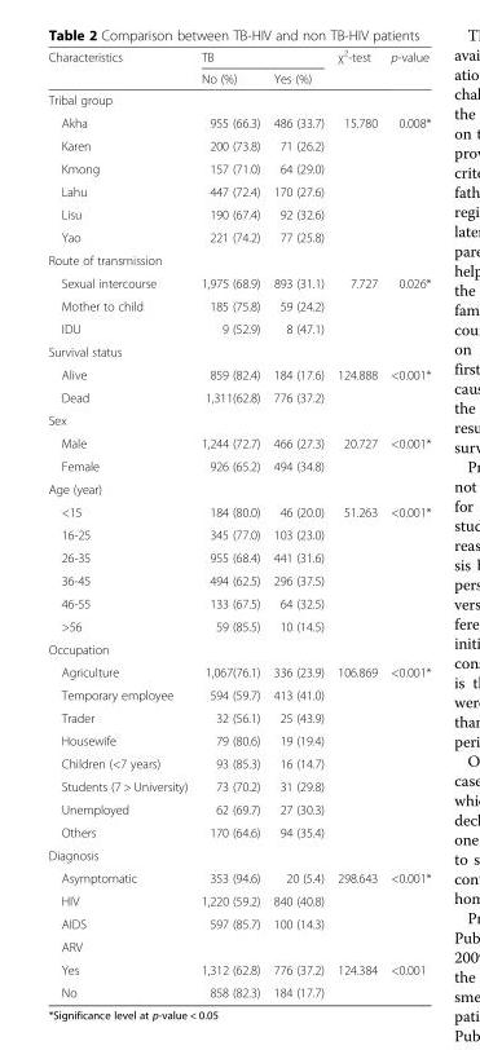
<table><thead><tr><td rowspan="2">Characteristics</td><td colspan="2">TB</td><td rowspan="2">χ<sup>2</sup>-test</td><td rowspan="2">p-value</td></tr><tr><td>No (%)</td><td>Yes (%)</td></tr></thead><tbody><tr><td colspan="5">Tribal group</td></tr><tr><td>Akha</td><td>955 (66.3)</td><td>486 (33.7)</td><td>15.780</td><td>0.008*</td></tr><tr><td>Karen</td><td>200 (73.8)</td><td>71 (26.2)</td><td></td><td></td></tr><tr><td>Kmong</td><td>157 (71.0)</td><td>64 (29.0)</td><td></td><td></td></tr><tr><td>Lahu</td><td>447 (72.4)</td><td>170 (27.6)</td><td></td><td></td></tr><tr><td>Lisu</td><td>190 (67.4)</td><td>92 (32.6)</td><td></td><td></td></tr><tr><td>Yao</td><td>221 (74.2)</td><td>77 (25.8)</td><td></td><td></td></tr><tr><td colspan="5">Route of transmission</td></tr><tr><td>Sexual intercourse</td><td>1,975 (68.9)</td><td>893 (31.1)</td><td>7.727</td><td>0.026*</td></tr><tr><td>Mother to child</td><td>185 (75.8)</td><td>59 (24.2)</td><td></td><td></td></tr><tr><td>IDU</td><td>9 (52.9)</td><td>8 (47.1)</td><td></td><td></td></tr><tr><td colspan="5">Survival status</td></tr><tr><td>Alive</td><td>859 (82.4)</td><td>184 (17.6)</td><td>124.888</td><td>&lt;0.001*</td></tr><tr><td>Dead</td><td>1,311(62.8)</td><td>776 (37.2)</td><td></td><td></td></tr><tr><td colspan="5">Sex</td></tr><tr><td>Male</td><td>1,244 (72.7)</td><td>466 (27.3)</td><td>20.727</td><td>&lt;0.001*</td></tr><tr><td>Female</td><td>926 (65.2)</td><td>494 (34.8)</td><td></td><td></td></tr><tr><td colspan="5">Age (year)</td></tr><tr><td>&lt;15</td><td>184 (80.0)</td><td>46 (20.0)</td><td>51.263</td><td>&lt;0.001*</td></tr><tr><td>16-25</td><td>345 (77.0)</td><td>103 (23.0)</td><td></td><td></td></tr><tr><td>26-35</td><td>955 (68.4)</td><td>441 (31.6)</td><td></td><td></td></tr><tr><td>36-45</td><td>494 (62.5)</td><td>296 (37.5)</td><td></td><td></td></tr><tr><td>46-55</td><td>133 (67.5)</td><td>64 (32.5)</td><td></td><td></td></tr><tr><td>&gt;56</td><td>59 (85.5)</td><td>10 (14.5)</td><td></td><td></td></tr><tr><td colspan="5">Occupation</td></tr><tr><td>Agriculture</td><td>1,067(76.1)</td><td>336 (23.9)</td><td>106.869</td><td>&lt;0.001*</td></tr><tr><td>Temporary employee</td><td>594 (59.7)</td><td>413 (41.0)</td><td></td><td></td></tr><tr><td>Trader</td><td>32 (56.1)</td><td>25 (43.9)</td><td></td><td></td></tr><tr><td>Housewife</td><td>79 (80.6)</td><td>19 (19.4)</td><td></td><td></td></tr><tr><td>Children (&lt;7 years)</td><td>93 (85.3)</td><td>16 (14.7)</td><td></td><td></td></tr><tr><td>Students (7 &gt; University)</td><td>73 (70.2)</td><td>31 (29.8)</td><td></td><td></td></tr><tr><td>Unemployed</td><td>62 (69.7)</td><td>27 (30.3)</td><td></td><td></td></tr><tr><td>Others</td><td>170 (64.6)</td><td>94 (35.4)</td><td></td><td></td></tr><tr><td colspan="5">Diagnosis</td></tr><tr><td>Asymptomatic</td><td>353 (94.6)</td><td>20 (5.4)</td><td>298.643</td><td>&lt;0.001*</td></tr><tr><td>HIV</td><td>1,220 (59.2)</td><td>840 (40.8)</td><td></td><td></td></tr><tr><td>AIDS</td><td>597 (85.7)</td><td>100 (14.3)</td><td></td><td></td></tr><tr><td colspan="5">ARV</td></tr><tr><td>Yes</td><td>1,312 (62.8)</td><td>776 (37.2)</td><td>124.384</td><td>&lt;0.001</td></tr><tr><td>No</td><td>858 (82.3)</td><td>184 (17.7)</td><td></td><td></td></tr></tbody></table>